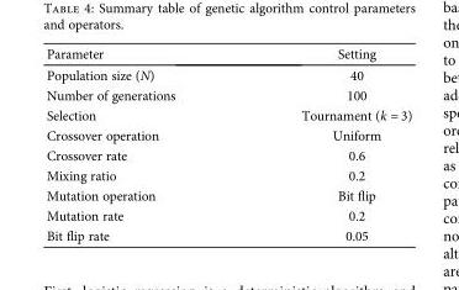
<table><thead><tr><td>Parameter</td><td>Setting</td></tr></thead><tbody><tr><td>Population size (N)</td><td>40</td></tr><tr><td>Number of generations</td><td>100</td></tr><tr><td>Selection</td><td>Tournament (k = 3)</td></tr><tr><td>Crossover operation</td><td>Uniform</td></tr><tr><td>Crossover rate</td><td>0.6</td></tr><tr><td>Mixing ratio</td><td>0.2</td></tr><tr><td>Mutation operation</td><td>Bit flip</td></tr><tr><td>Mutation rate</td><td>0.2</td></tr><tr><td>Bit flip rate</td><td>0.05</td></tr></tbody></table>